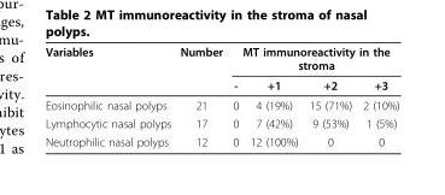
<table><thead><tr><td rowspan="2">Variables</td><td rowspan="2">Number</td><td colspan="4">MT immunoreactivity in the stroma</td></tr><tr><td>-</td><td>+1</td><td>+2</td><td>+3</td></tr></thead><tbody><tr><td>Eosinophilic nasal polyps</td><td>21</td><td>0</td><td>4 (19%)</td><td>15 (71%)</td><td>2 (10%)</td></tr><tr><td>Lymphocytic nasal polyps</td><td>17</td><td>0</td><td>7 (42%)</td><td>9 (53%)</td><td>1 (5%)</td></tr><tr><td>Neutrophilic nasal polyps</td><td>12</td><td>0</td><td>12 (100%)</td><td>0</td><td>0</td></tr></tbody></table>